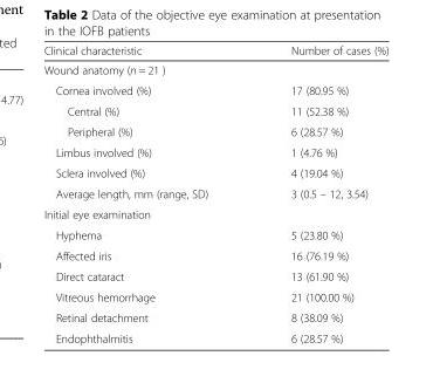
<table><thead><tr><td>Clinical characteristic</td><td>Number of cases (%)</td></tr></thead><tbody><tr><td colspan="2">Wound anatomy (n = 21 )</td></tr><tr><td>Cornea involved (%)</td><td>17 (80.95 %)</td></tr><tr><td>Central (%)</td><td>11 (52.38 %)</td></tr><tr><td>Peripheral (%)</td><td>6 (28.57 %)</td></tr><tr><td>Limbus involved (%)</td><td>1 (4.76 %)</td></tr><tr><td>Sclera involved (%)</td><td>4 (19.04 %)</td></tr><tr><td>Average length, mm (range, SD)</td><td>3 (0.5 – 12, 3.54)</td></tr><tr><td colspan="2">Initial eye examination</td></tr><tr><td>Hyphema</td><td>5 (23.80 %)</td></tr><tr><td>Affected iris</td><td>16 (76.19 %)</td></tr><tr><td>Direct cataract</td><td>13 (61.90 %)</td></tr><tr><td>Vitreous hemorrhage</td><td>21 (100.00 %)</td></tr><tr><td>Retinal detachment</td><td>8 (38.09 %)</td></tr><tr><td>Endophthalmitis</td><td>6 (28.57 %)</td></tr></tbody></table>